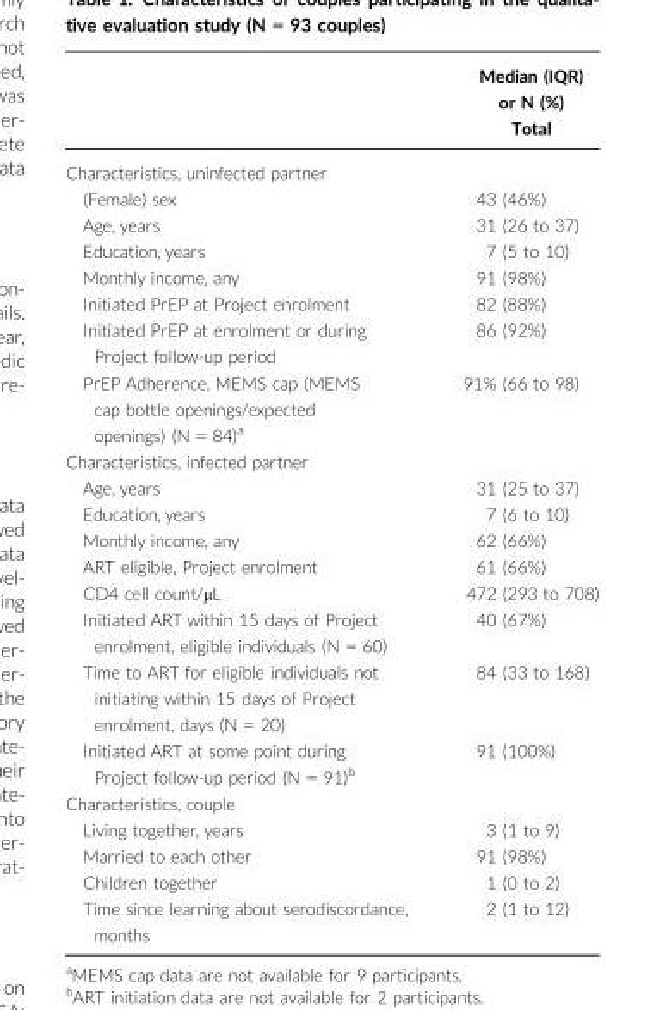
<table><thead><tr><td rowspan="2"></td><td rowspan="2">Median (IQR) or N (%) Total</td></tr><tr></tr></thead><tbody><tr><td colspan="2">Characteristics, uninfected partner</td></tr><tr><td>(Female) sex</td><td>43 (46%)</td></tr><tr><td>Age, years</td><td>31 (26 to 37)</td></tr><tr><td>Education, years</td><td>7 (5 to 10)</td></tr><tr><td>Monthly income, any</td><td>91 (98%)</td></tr><tr><td>Initiated PrEP at Project enrolment</td><td>82 (88%)</td></tr><tr><td>Initiated PrEP at enrolment or during Project follow-up period</td><td>86 (92%)</td></tr><tr><td>PrEP Adherence, MEMS cap (MEMS cap bottle openings/expected openings) (N = 84)<sup>a</sup></td><td>91% (66 to 98)</td></tr><tr><td colspan="2">Characteristics, infected partner</td></tr><tr><td>Age, years</td><td>31 (25 to 37)</td></tr><tr><td>Education, years</td><td>7 (6 to 10)</td></tr><tr><td>Monthly income, any</td><td>62 (66%)</td></tr><tr><td>ART eligible, Project enrolment</td><td>61 (66%)</td></tr><tr><td>CD4 cell count/μL</td><td>472 (293 to 708)</td></tr><tr><td>Initiated ART within 15 days of Project enrolment, eligible individuals (N = 60)</td><td>40 (67%)</td></tr><tr><td>Time to ART for eligible individuals not initiating within 15 days of Project enrolment, days (N = 20)</td><td>84 (33 to 168)</td></tr><tr><td>Initiated ART at some point during Project follow-up period (N = 91)<sup>b</sup></td><td>91 (100%)</td></tr><tr><td colspan="2">Characteristics, couple</td></tr><tr><td>Living together, years</td><td>3 (1 to 9)</td></tr><tr><td>Married to each other</td><td>91 (98%)</td></tr><tr><td>Children together</td><td>1 (0 to 2)</td></tr><tr><td>Time since learning about serodiscordance, months</td><td>2 (1 to 12)</td></tr></tbody></table>